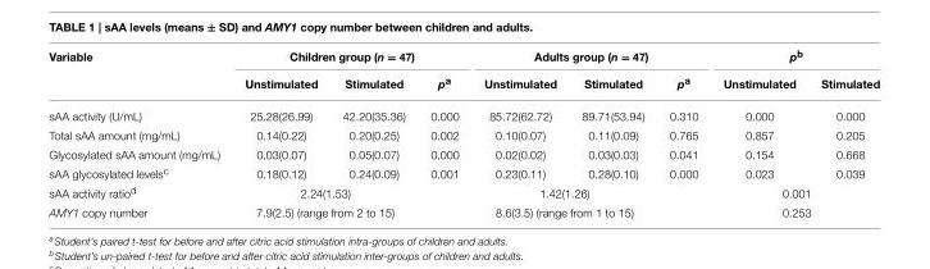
<table><thead><tr><td rowspan="2">Variable</td><td colspan="3">Children group (n = 47)</td><td colspan="3">Adults group (n = 47)</td><td colspan="2">p<sup>b</sup></td></tr><tr><td>Unstimulated</td><td>Stimulated</td><td>p<sup>a</sup></td><td>Unstimulated</td><td>Stimulated</td><td>p<sup>a</sup></td><td>Unstimulated</td><td>Stimulated</td></tr></thead><tbody><tr><td>sAA activity (U/mL)</td><td>25.28(26.99)</td><td>42.20(35.36)</td><td>0.000</td><td>85.72(62.72)</td><td>89.71(53.94)</td><td>0.310</td><td>0.000</td><td>0.000</td></tr><tr><td>Total sAA amount (mg/mL)</td><td>0.14(0.22)</td><td>0.20(0.25)</td><td>0.002</td><td>0.10(0.07)</td><td>0.11(0.09)</td><td>0.765</td><td>0.857</td><td>0.205</td></tr><tr><td>Glycosylated sAA amount (mg/mL)</td><td>0.03(0.07)</td><td>0.05(0.07)</td><td>0.000</td><td>0.02(0.02)</td><td>0.03(0.03)</td><td>0.041</td><td>0.154</td><td>0.668</td></tr><tr><td>sAA glycosylated levels<sup>c</sup></td><td>0.18(0.12)</td><td>0.24(0.09)</td><td>0.001</td><td>0.23(0.11)</td><td>0.28(0.10)</td><td>0.000</td><td>0.023</td><td>0.039</td></tr><tr><td>sAA activity ratio<sup>d</sup></td><td colspan="2">2.24(1.53)</td><td></td><td colspan="2">1.42(1.26)</td><td></td><td colspan="2">0.001</td></tr><tr><td>AMY1 copy number</td><td colspan="2">7.9(2.5) (range from 2 to 15)</td><td></td><td colspan="2">8.6(3.5) (range from 1 to 15)</td><td></td><td colspan="2">0.253</td></tr></tbody></table>